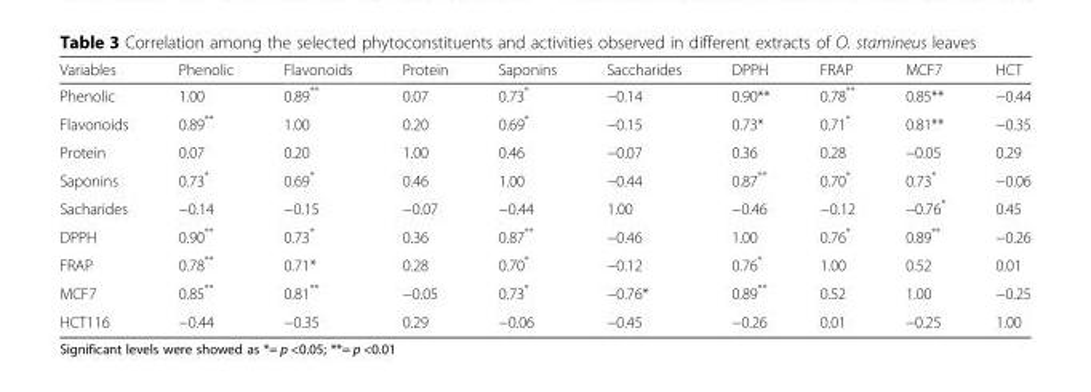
<table><thead><tr><td>Variables</td><td>Phenolic</td><td>Flavonoids</td><td>Protein</td><td>Saponins</td><td>Saccharides</td><td>DPPH</td><td>FRAP</td><td>MCF7</td><td>HCT</td></tr></thead><tbody><tr><td>Phenolic</td><td>1.00</td><td>0.89**</td><td>0.07</td><td>0.73*</td><td>−0.14</td><td>0.90**</td><td>0.78**</td><td>0.85**</td><td>−0.44</td></tr><tr><td>Flavonoids</td><td>0.89**</td><td>1.00</td><td>0.20</td><td>0.69*</td><td>−0.15</td><td>0.73*</td><td>0.71*</td><td>0.81**</td><td>−0.35</td></tr><tr><td>Protein</td><td>0.07</td><td>0.20</td><td>1.00</td><td>0.46</td><td>−0.07</td><td>0.36</td><td>0.28</td><td>−0.05</td><td>0.29</td></tr><tr><td>Saponins</td><td>0.73*</td><td>0.69*</td><td>0.46</td><td>1.00</td><td>−0.44</td><td>0.87**</td><td>0.70*</td><td>0.73*</td><td>−0.06</td></tr><tr><td>Sacharides</td><td>−0.14</td><td>−0.15</td><td>−0.07</td><td>−0.44</td><td>1.00</td><td>−0.46</td><td>−0.12</td><td>−0.76*</td><td>0.45</td></tr><tr><td>DPPH</td><td>0.90**</td><td>0.73*</td><td>0.36</td><td>0.87**</td><td>−0.46</td><td>1.00</td><td>0.76*</td><td>0.89**</td><td>−0.26</td></tr><tr><td>FRAP</td><td>0.78**</td><td>0.71*</td><td>0.28</td><td>0.70*</td><td>−0.12</td><td>0.76*</td><td>1.00</td><td>0.52</td><td>0.01</td></tr><tr><td>MCF7</td><td>0.85**</td><td>0.81**</td><td>−0.05</td><td>0.73*</td><td>−0.76*</td><td>0.89**</td><td>0.52</td><td>1.00</td><td>−0.25</td></tr><tr><td>HCT116</td><td>−0.44</td><td>−0.35</td><td>0.29</td><td>−0.06</td><td>−0.45</td><td>−0.26</td><td>0.01</td><td>−0.25</td><td>1.00</td></tr></tbody></table>